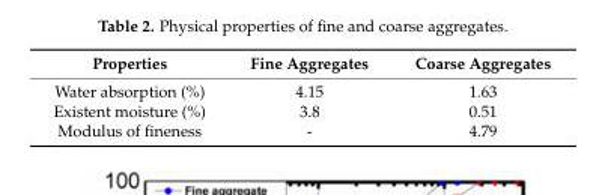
<table><thead><tr><td>Properties</td><td>Fine Aggregates</td><td>Coarse Aggregates</td></tr></thead><tbody><tr><td>Water absorption (%)</td><td>4.15</td><td>1.63</td></tr><tr><td>Existent moisture (%)</td><td>3.8</td><td>0.51</td></tr><tr><td>Modulus of fineness</td><td>-</td><td>4.79</td></tr></tbody></table>